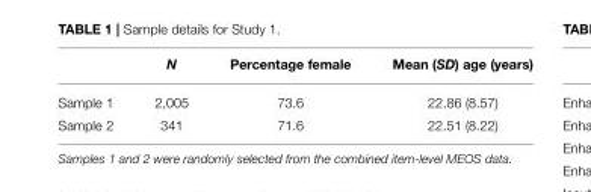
<table><thead><tr><td></td><td>N</td><td>Percentage female</td><td>Mean (SD) age (years)</td></tr></thead><tbody><tr><td>Sample 1</td><td>2,005</td><td>73.6</td><td>22.86 (8.57)</td></tr><tr><td>Sample 2</td><td>341</td><td>71.6</td><td>22.51 (8.22)</td></tr></tbody></table>